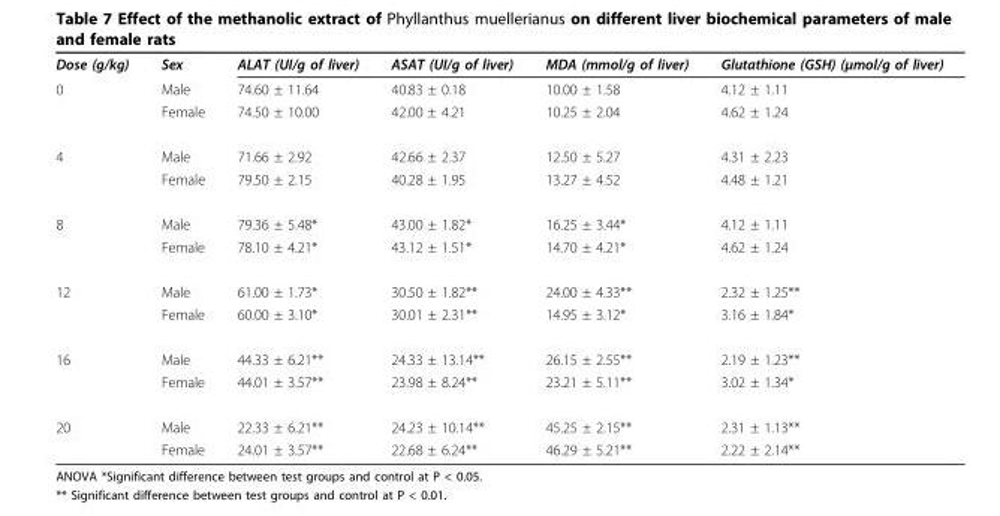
<table><tbody><tr><td>Dose (g/kg)</td><td>Sex</td><td>ALAT (UI/g of liver)</td><td>ASAT (UI/g of liver)</td><td>MDA (mmol/g of liver)</td><td>Glutathione (GSH) (μmol/g of liver)</td></tr><tr><td rowspan="2">0</td><td>Male</td><td>74.60 ± 11.64</td><td>40.83 ± 0.18</td><td>10.00 ± 1.58</td><td>4.12 ± 1.11</td></tr><tr><td>Female</td><td>74.50 ± 10.00</td><td>42.00 ± 4.21</td><td>10.25 ± 2.04</td><td>4.62 ± 1.24</td></tr><tr><td rowspan="2">4</td><td>Male</td><td>71.66 ± 2.92</td><td>42.66 ± 2.37</td><td>12.50 ± 5.27</td><td>4.31 ± 2.23</td></tr><tr><td>Female</td><td>79.50 ± 2.15</td><td>40.28 ± 1.95</td><td>13.27 ± 4.52</td><td>4.48 ± 1.21</td></tr><tr><td rowspan="2">8</td><td>Male</td><td>79.36 ± 5.48*</td><td>43.00 ± 1.82*</td><td>16.25 ± 3.44*</td><td>4.12 ± 1.11</td></tr><tr><td>Female</td><td>78.10 ± 4.21*</td><td>43.12 ± 1.51*</td><td>14.70 ± 4.21*</td><td>4.62 ± 1.24</td></tr><tr><td rowspan="2">12</td><td>Male</td><td>61.00 ± 1.73*</td><td>30.50 ± 1.82**</td><td>24.00 ± 4.33**</td><td>2.32 ± 1.25**</td></tr><tr><td>Female</td><td>60.00 ± 3.10*</td><td>30.01 ± 2.31**</td><td>14.95 ± 3.12*</td><td>3.16 ± 1.84*</td></tr><tr><td rowspan="2">16</td><td>Male</td><td>44.33 ± 6.21**</td><td>24.33 ± 13.14**</td><td>26.15 ± 2.55**</td><td>2.19 ± 1.23**</td></tr><tr><td>Female</td><td>44.01 ± 3.57**</td><td>23.98 ± 8.24**</td><td>23.21 ± 5.11**</td><td>3.02 ± 1.34*</td></tr><tr><td rowspan="2">20</td><td>Male</td><td>22.33 ± 6.21**</td><td>24.23 ± 10.14**</td><td>45.25 ± 2.15**</td><td>2.31 ± 1.13**</td></tr><tr><td>Female</td><td>24.01 ± 3.57**</td><td>22.68 ± 6.24**</td><td>46.29 ± 5.21**</td><td>2.22 ± 2.14**</td></tr></tbody></table>